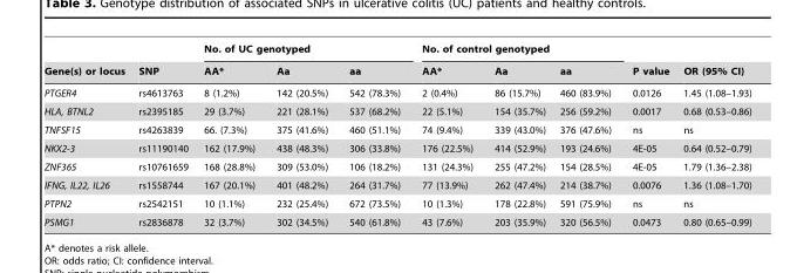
<table><thead><tr><td rowspan="2">Gene(s) or locus</td><td rowspan="2">SNP</td><td colspan="3">No. of UC genotyped</td><td colspan="3">No. of control genotyped</td><td rowspan="2">P value</td><td rowspan="2">OR (95% CI)</td></tr><tr><td>AA*</td><td>Aa</td><td>aa</td><td>AA*</td><td>Aa</td><td>aa</td></tr></thead><tbody><tr><td>PTGER4</td><td>rs4613763</td><td>8 (1.2%)</td><td>142 (20.5%)</td><td>542 (78.3%)</td><td>2 (0.4%)</td><td>86 (15.7%)</td><td>460 (83.9%)</td><td>0.0126</td><td>1.45 (1.08–1.93)</td></tr><tr><td>HLA, BTNL2</td><td>rs2395185</td><td>29 (3.7%)</td><td>221 (28.1%)</td><td>537 (68.2%)</td><td>22 (5.1%)</td><td>154 (35.7%)</td><td>256 (59.2%)</td><td>0.0017</td><td>0.68 (0.53–0.86)</td></tr><tr><td>TNFSF15</td><td>rs4263839</td><td>66. (7.3%)</td><td>375 (41.6%)</td><td>460 (51.1%)</td><td>74 (9.4%)</td><td>339 (43.0%)</td><td>376 (47.6%)</td><td>ns</td><td>ns</td></tr><tr><td>NKX2-3</td><td>rs11190140</td><td>162 (17.9%)</td><td>438 (48.3%)</td><td>306 (33.8%)</td><td>176 (22.5%)</td><td>414 (52.9%)</td><td>193 (24.6%)</td><td>4E-05</td><td>0.64 (0.52–0.79)</td></tr><tr><td>ZNF365</td><td>rs10761659</td><td>168 (28.8%)</td><td>309 (53.0%)</td><td>106 (18.2%)</td><td>131 (24.3%)</td><td>255 (47.2%)</td><td>154 (28.5%)</td><td>4E-05</td><td>1.79 (1.36–2.38)</td></tr><tr><td>IFNG, IL22, IL26</td><td>rs1558744</td><td>167 (20.1%)</td><td>401 (48.2%)</td><td>264 (31.7%)</td><td>77 (13.9%)</td><td>262 (47.4%)</td><td>214 (38.7%)</td><td>0.0076</td><td>1.36 (1.08–1.70)</td></tr><tr><td>PTPN2</td><td>rs2542151</td><td>10 (1.1%)</td><td>232 (25.4%)</td><td>672 (73.5%)</td><td>10 (1.3%)</td><td>178 (22.8%)</td><td>591 (75.9%)</td><td>ns</td><td>ns</td></tr><tr><td>PSMG1</td><td>rs2836878</td><td>32 (3.7%)</td><td>302 (34.5%)</td><td>540 (61.8%)</td><td>43 (7.6%)</td><td>203 (35.9%)</td><td>320 (56.5%)</td><td>0.0473</td><td>0.80 (0.65–0.99)</td></tr></tbody></table>